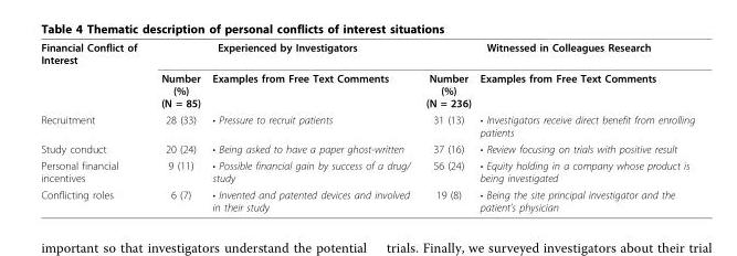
<table><tbody><tr><td rowspan="2">Financial Conflict of Interest</td><td colspan="2">Experienced by Investigators</td><td colspan="2">Witnessed in Colleagues Research</td></tr><tr><td>Number (%) (N = 85)</td><td>Examples from Free Text Comments</td><td>Number (%) (N = 236)</td><td>Examples from Free Text Comments</td></tr><tr><td>Recruitment</td><td>28 (33)</td><td>• Pressure to recruit patients</td><td>31 (13)</td><td>• Investigators receive direct benefit from enrolling patients</td></tr><tr><td>Study conduct</td><td>20 (24)</td><td>• Being asked to have a paper ghost-written</td><td>37 (16)</td><td>• Review focusing on trials with positive result</td></tr><tr><td>Personal financial incentives</td><td>9 (11)</td><td>• Possible financial gain by success of a drug/ study</td><td>56 (24)</td><td>• Equity holding in a company whose product is being investigated</td></tr><tr><td>Conflicting roles</td><td>6 (7)</td><td>• Invented and patented devices and involved in their study</td><td>19 (8)</td><td>• Being the site principal investigator and the patient’s physician</td></tr></tbody></table>